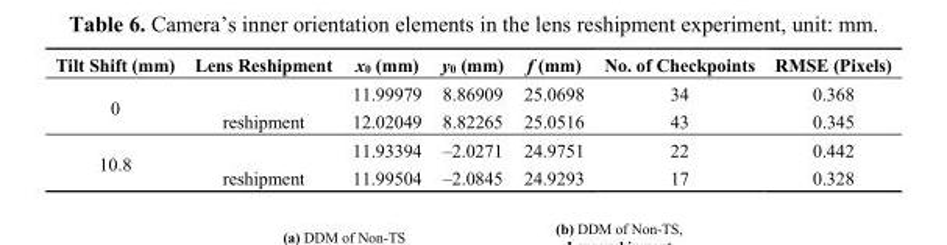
<table><thead><tr><td>Tilt Shift (mm)</td><td>Lens Reshipment</td><td>x<sub>0</sub> (mm)</td><td>y<sub>0</sub> (mm)</td><td>f (mm)</td><td>No. of Checkpoints</td><td>RMSE (Pixels)</td></tr></thead><tbody><tr><td rowspan="2">0</td><td></td><td>11.99979</td><td>8.86909</td><td>25.0698</td><td>34</td><td>0.368</td></tr><tr><td>reshipment</td><td>12.02049</td><td>8.82265</td><td>25.0516</td><td>43</td><td>0.345</td></tr><tr><td rowspan="2">10.8</td><td></td><td>11.93394</td><td>–2.0271</td><td>24.9751</td><td>22</td><td>0.442</td></tr><tr><td>reshipment</td><td>11.99504</td><td>–2.0845</td><td>24.9293</td><td>17</td><td>0.328</td></tr></tbody></table>